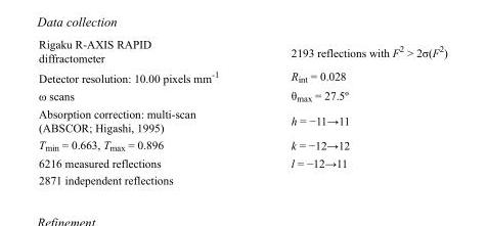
<table><tbody><tr><td>Rigaku R-AXIS RAPID diffractometer</td><td>2193 reflections with F<sup>2</sup> &gt; 2σ(F<sup>2</sup>)</td></tr><tr><td>Detector resolution: 10.00 pixels mm<sup>-1</sup></td><td>R<sub>int</sub> = 0.028</td></tr><tr><td>ω scans</td><td>θmax = 27.5º</td></tr><tr><td>Absorption correction: multi-scan (ABSCOR; Higashi, 1995)</td><td>h = −11→11</td></tr><tr><td>T<sub>min</sub> = 0.663, T<sub>max</sub> = 0.896</td><td>k = −12→12</td></tr><tr><td>6216 measured reflections</td><td>l = −12→11</td></tr><tr><td>2871 independent reflections</td><td></td></tr></tbody></table>